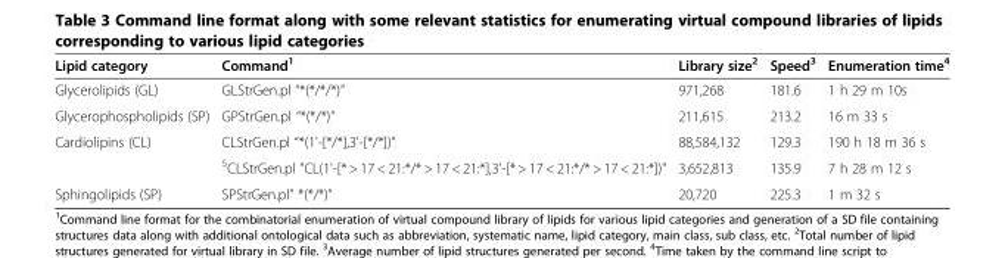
<table><thead><tr><td>Lipid category</td><td>Command<sup>1</sup></td><td>Library size<sup>2</sup></td><td>Speed<sup>3</sup></td><td>Enumeration time<sup>4</sup></td></tr></thead><tbody><tr><td>Glycerolipids (GL)</td><td>GLStrGen.pl “*(*/*/*)”</td><td>971,268</td><td>181.6</td><td>1 h 29 m 10s</td></tr><tr><td>Glycerophospholipids (SP)</td><td>GPStrGen.pl “*(*/*)”</td><td>211,615</td><td>213.2</td><td>16 m 33 s</td></tr><tr><td rowspan="2">Cardiolipins (CL)</td><td>CLStrGen.pl “*(1&#x27;-[*/*],3&#x27;-[*/*])”</td><td>88,584,132</td><td>129.3</td><td>190 h 18 m 36 s</td></tr><tr><td><sup>5</sup>CLStrGen.pl &quot;CL(1&#x27;-[* &gt; 17 &lt; 21:*/* &gt; 17 &lt; 21:*],3&#x27;-[* &gt; 17 &lt; 21:*/* &gt; 17 &lt; 21:*])&quot;</td><td>3,652,813</td><td>135.9</td><td>7 h 28 m 12 s</td></tr><tr><td>Sphingolipids (SP)</td><td>SPStrGen.pl” *(*/*)”</td><td>20,720</td><td>225.3</td><td>1 m 32 s</td></tr></tbody></table>